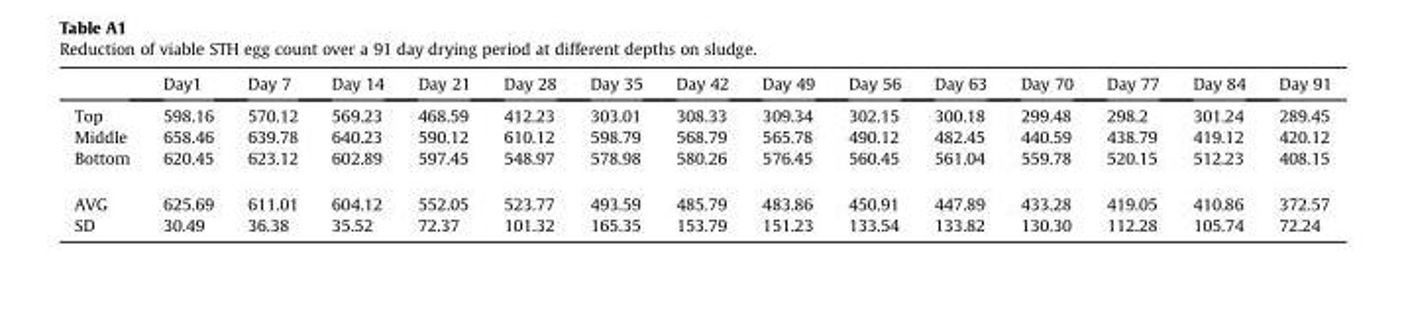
<table><thead><tr><td></td><td>Day1</td><td>Day 7</td><td>Day 14</td><td>Day 21</td><td>Day 28</td><td>Day 35</td><td>Day 42</td><td>Day 49</td><td>Day 56</td><td>Day 63</td><td>Day 70</td><td>Day 77</td><td>Day 84</td><td>Day 91</td></tr></thead><tbody><tr><td>Top</td><td>598.16</td><td>570.12</td><td>569.23</td><td>468.59</td><td>412.23</td><td>303.01</td><td>308.33</td><td>309.34</td><td>302.15</td><td>300.18</td><td>299.48</td><td>298.2</td><td>301.24</td><td>289.45</td></tr><tr><td>Middle</td><td>658.46</td><td>639.78</td><td>640.23</td><td>590.12</td><td>610.12</td><td>598.79</td><td>568.79</td><td>565.78</td><td>490.12</td><td>482.45</td><td>440.59</td><td>438.79</td><td>419.12</td><td>420.12</td></tr><tr><td>Bottom</td><td>620.45</td><td>623.12</td><td>602.89</td><td>597.45</td><td>548.97</td><td>578.98</td><td>580.26</td><td>576.45</td><td>560.45</td><td>561.04</td><td>559.78</td><td>520.15</td><td>512.23</td><td>408.15</td></tr><tr><td>AVG</td><td>625.69</td><td>611.01</td><td>604.12</td><td>552.05</td><td>523.77</td><td>493.59</td><td>485.79</td><td>483.86</td><td>450.91</td><td>447.89</td><td>433.28</td><td>419.05</td><td>410.86</td><td>372.57</td></tr><tr><td>SD</td><td>30.49</td><td>36.38</td><td>35.52</td><td>72.37</td><td>101.32</td><td>165.35</td><td>153.79</td><td>151.23</td><td>133.54</td><td>133.82</td><td>130.30</td><td>112.28</td><td>105.74</td><td>72.24</td></tr></tbody></table>